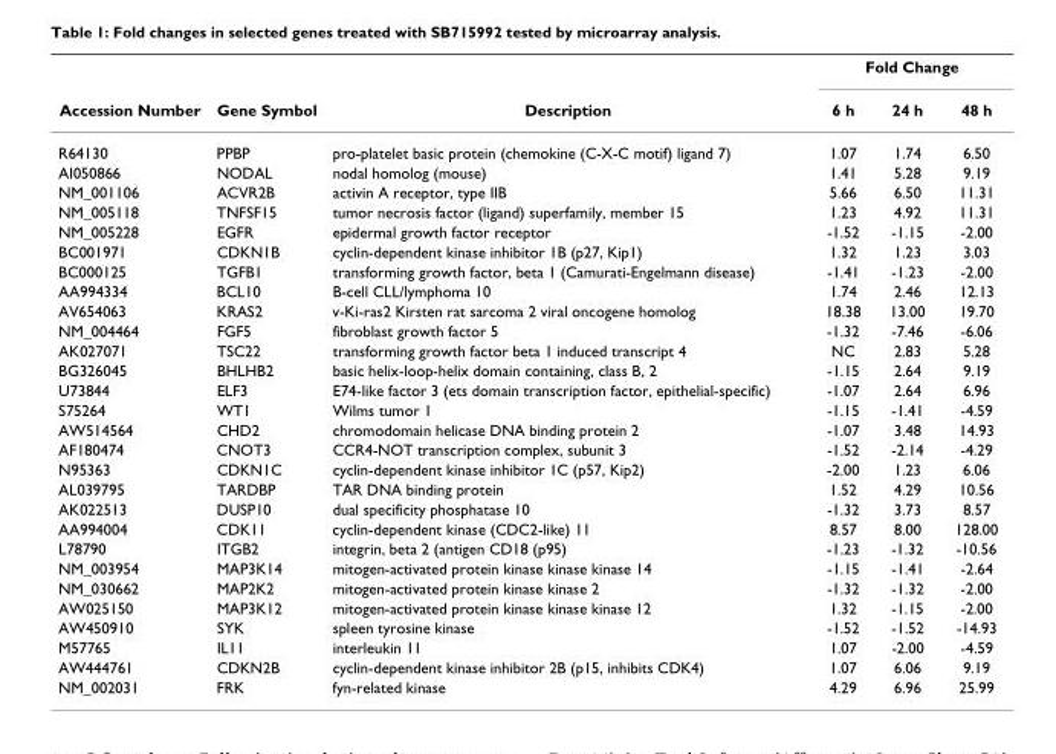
<table><thead><tr><td rowspan="2">Accession Number</td><td rowspan="2">Gene Symbol</td><td rowspan="2">Description</td><td colspan="3">Fold Change</td></tr><tr><td>6 h</td><td>24 h</td><td>48 h</td></tr></thead><tbody><tr><td>R64130</td><td>PPBP</td><td>pro-platelet basic protein (chemokine (C-X-C motif) ligand 7)</td><td>1.07</td><td>1.74</td><td>6.50</td></tr><tr><td>AI050866</td><td>NODAL</td><td>nodal homolog (mouse)</td><td>1.41</td><td>5.28</td><td>9.19</td></tr><tr><td>NM_001106</td><td>ACVR2B</td><td>activin A receptor, type IIB</td><td>5.66</td><td>6.50</td><td>11.31</td></tr><tr><td>NM_005118</td><td>TNFSF15</td><td>tumor necrosis factor (ligand) superfamily, member 15</td><td>1.23</td><td>4.92</td><td>11.31</td></tr><tr><td>NM_005228</td><td>EGFR</td><td>epidermal growth factor receptor</td><td>-1.52</td><td>-1.15</td><td>-2.00</td></tr><tr><td>BC001971</td><td>CDKN1B</td><td>cyclin-dependent kinase inhibitor 1B (p27, Kip1)</td><td>1.32</td><td>1.23</td><td>3.03</td></tr><tr><td>BC000125</td><td>TGFB1</td><td>transforming growth factor, beta 1 (Camurati-Engelmann disease)</td><td>-1.41</td><td>-1.23</td><td>-2.00</td></tr><tr><td>AA994334</td><td>BCL10</td><td>B-cell CLL/lymphoma 10</td><td>1.74</td><td>2.46</td><td>12.13</td></tr><tr><td>AV654063</td><td>KRAS2</td><td>v-Ki-ras2 Kirsten rat sarcoma 2 viral oncogene homolog</td><td>18.38</td><td>13.00</td><td>19.70</td></tr><tr><td>NM_004464</td><td>FGF5</td><td>fibroblast growth factor 5</td><td>-1.32</td><td>-7.46</td><td>-6.06</td></tr><tr><td>AK027071</td><td>TSC22</td><td>transforming growth factor beta 1 induced transcript 4</td><td>NC</td><td>2.83</td><td>5.28</td></tr><tr><td>BG326045</td><td>BHLHB2</td><td>basic helix-loop-helix domain containing, class B, 2</td><td>-1.15</td><td>2.64</td><td>9.19</td></tr><tr><td>U73844</td><td>ELF3</td><td>E74-like factor 3 (ets domain transcription factor, epithelial-specific)</td><td>-1.07</td><td>2.64</td><td>6.96</td></tr><tr><td>S75264</td><td>WT1</td><td>Wilms tumor 1</td><td>-1.15</td><td>-1.41</td><td>-4.59</td></tr><tr><td>AW514564</td><td>CHD2</td><td>chromodomain helicase DNA binding protein 2</td><td>-1.07</td><td>3.48</td><td>14.93</td></tr><tr><td>AF180474</td><td>CNOT3</td><td>CCR4-NOT transcription complex, subunit 3</td><td>-1.52</td><td>-2.14</td><td>-4.29</td></tr><tr><td>N95363</td><td>CDKN1C</td><td>cyclin-dependent kinase inhibitor 1C (p57, Kip2)</td><td>-2.00</td><td>1.23</td><td>6.06</td></tr><tr><td>AL039795</td><td>TARDBP</td><td>TAR DNA binding protein</td><td>1.52</td><td>4.29</td><td>10.56</td></tr><tr><td>AK022513</td><td>DUSP10</td><td>dual specificity phosphatase 10</td><td>-1.32</td><td>3.73</td><td>8.57</td></tr><tr><td>AA994004</td><td>CDK11</td><td>cyclin-dependent kinase (CDC2-like) 11</td><td>8.57</td><td>8.00</td><td>128.00</td></tr><tr><td>L78790</td><td>ITGB2</td><td>integrin, beta 2 (antigen CD18 (p95)</td><td>-1.23</td><td>-1.32</td><td>-10.56</td></tr><tr><td>NM_003954</td><td>MAP3K14</td><td>mitogen-activated protein kinase kinase kinase 14</td><td>-1.15</td><td>-1.41</td><td>-2.64</td></tr><tr><td>NM_030662</td><td>MAP2K2</td><td>mitogen-activated protein kinase kinase 2</td><td>-1.32</td><td>-1.32</td><td>-2.00</td></tr><tr><td>AW025150</td><td>MAP3K12</td><td>mitogen-activated protein kinase kinase kinase 12</td><td>1.32</td><td>-1.15</td><td>-2.00</td></tr><tr><td>AW450910</td><td>SYK</td><td>spleen tyrosine kinase</td><td>-1.52</td><td>-1.52</td><td>-14.93</td></tr><tr><td>M57765</td><td>IL11</td><td>interleukin 11</td><td>1.07</td><td>-2.00</td><td>-4.59</td></tr><tr><td>AW444761</td><td>CDKN2B</td><td>cyclin-dependent kinase inhibitor 2B (p15, inhibits CDK4)</td><td>1.07</td><td>6.06</td><td>9.19</td></tr><tr><td>NM_002031</td><td>FRK</td><td>fyn-related kinase</td><td>4.29</td><td>6.96</td><td>25.99</td></tr></tbody></table>